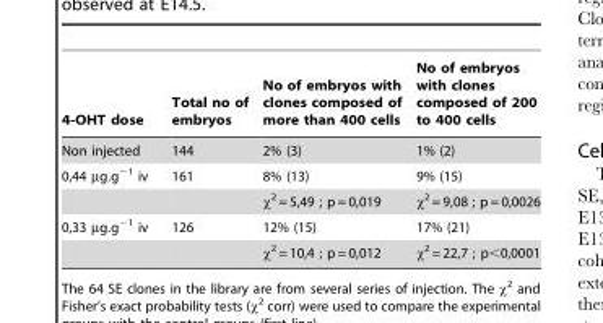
<table><thead><tr><td>4-OHT dose</td><td>Total no of embryos</td><td>No of embryos with clones composed of more than 400 cells</td><td>No of embryos with clones composed of 200 to 400 cells</td></tr></thead><tbody><tr><td>Non injected</td><td>144</td><td>2% (3)</td><td>1% (2)</td></tr><tr><td rowspan="2">0,44 µg.g<sup>−1</sup> iv</td><td>161</td><td>8% (13)</td><td>9% (15)</td></tr><tr><td></td><td>χ<sup>2</sup> = 5,49 ; p = 0,019</td><td>χ<sup>2</sup> = 9,08 ; p = 0,0026</td></tr><tr><td rowspan="2">0,33 µg.g<sup>−1</sup> iv</td><td>126</td><td>12% (15)</td><td>17% (21)</td></tr><tr><td></td><td>χ<sup>2</sup> = 10,4 ; p = 0,012</td><td>χ<sup>2</sup> = 22,7 ; p&lt;0,0001</td></tr></tbody></table>